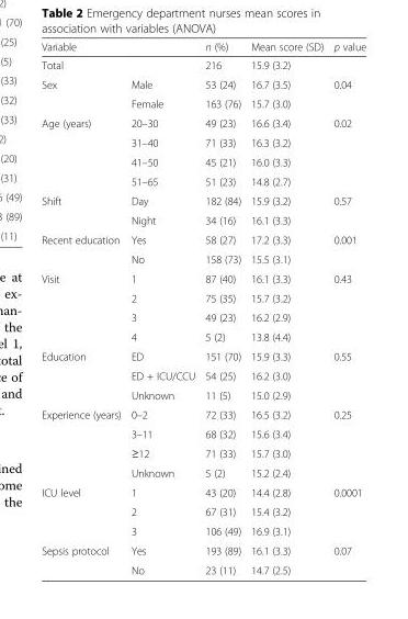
<table><thead><tr><td>Variable</td><td></td><td>n (%)</td><td>Mean score (SD)</td><td>p value</td></tr></thead><tbody><tr><td>Total</td><td></td><td>216</td><td>15.9 (3.2)</td><td></td></tr><tr><td rowspan="2">Sex</td><td>Male</td><td>53 (24)</td><td>16.7 (3.5)</td><td>0.04</td></tr><tr><td>Female</td><td>163 (76)</td><td>15.7 (3.0)</td><td></td></tr><tr><td rowspan="4">Age (years)</td><td>20–30</td><td>49 (23)</td><td>16.6 (3.4)</td><td>0.02</td></tr><tr><td>31–40</td><td>71 (33)</td><td>16.3 (3.2)</td><td></td></tr><tr><td>41–50</td><td>45 (21)</td><td>16.0 (3.3)</td><td></td></tr><tr><td>51–65</td><td>51 (23)</td><td>14.8 (2.7)</td><td></td></tr><tr><td rowspan="2">Shift</td><td>Day</td><td>182 (84)</td><td>15.9 (3.2)</td><td>0.57</td></tr><tr><td>Night</td><td>34 (16)</td><td>16.1 (3.3)</td><td></td></tr><tr><td rowspan="2">Recent education</td><td>Yes</td><td>58 (27)</td><td>17.2 (3.3)</td><td>0.001</td></tr><tr><td>No</td><td>158 (73)</td><td>15.5 (3.1)</td><td></td></tr><tr><td rowspan="4">Visit</td><td>1</td><td>87 (40)</td><td>16.1 (3.3)</td><td>0.43</td></tr><tr><td>2</td><td>75 (35)</td><td>15.7 (3.2)</td><td></td></tr><tr><td>3</td><td>49 (23)</td><td>16.2 (2.9)</td><td></td></tr><tr><td>4</td><td>5 (2)</td><td>13.8 (4.4)</td><td></td></tr><tr><td rowspan="3">Education</td><td>ED</td><td>151 (70)</td><td>15.9 (3.3)</td><td>0.55</td></tr><tr><td>ED + ICU/CCU</td><td>54 (25)</td><td>16.2 (3.0)</td><td></td></tr><tr><td>Unknown</td><td>11 (5)</td><td>15.0 (2.9)</td><td></td></tr><tr><td rowspan="4">Experience (years)</td><td>0–2</td><td>72 (33)</td><td>16.5 (3.2)</td><td>0.25</td></tr><tr><td>3–11</td><td>68 (32)</td><td>15.6 (3.4)</td><td></td></tr><tr><td>≥12</td><td>71 (33)</td><td>15.7 (3.0)</td><td></td></tr><tr><td>Unknown</td><td>5 (2)</td><td>15.2 (2.4)</td><td></td></tr><tr><td rowspan="3">ICU level</td><td>1</td><td>43 (20)</td><td>14.4 (2.8)</td><td>0.0001</td></tr><tr><td>2</td><td>67 (31)</td><td>15.4 (3.2)</td><td></td></tr><tr><td>3</td><td>106 (49)</td><td>16.9 (3.1)</td><td></td></tr><tr><td rowspan="2">Sepsis protocol</td><td>Yes</td><td>193 (89)</td><td>16.1 (3.3)</td><td>0.07</td></tr><tr><td>No</td><td>23 (11)</td><td>14.7 (2.5)</td><td></td></tr></tbody></table>